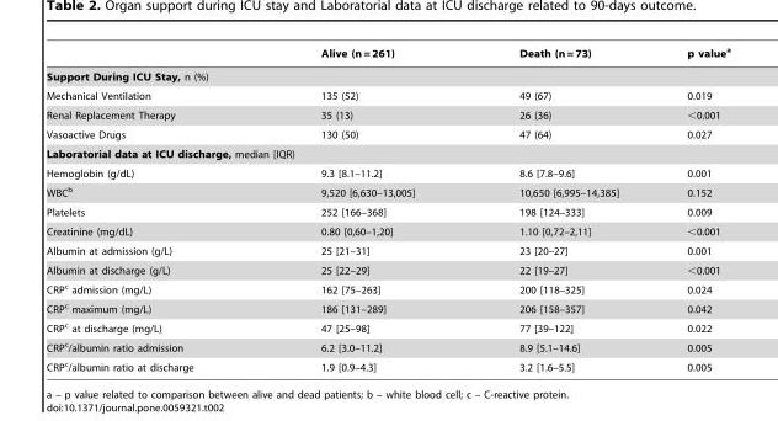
<table><thead><tr><td></td><td>Alive (n = 261)</td><td>Death (n = 73)</td><td>p value<sup>a</sup></td></tr></thead><tbody><tr><td colspan="4">Support During ICU Stay, n (%)</td></tr><tr><td>Mechanical Ventilation</td><td>135 (52)</td><td>49 (67)</td><td>0.019</td></tr><tr><td>Renal Replacement Therapy</td><td>35 (13)</td><td>26 (36)</td><td>&lt;0.001</td></tr><tr><td>Vasoactive Drugs</td><td>130 (50)</td><td>47 (64)</td><td>0.027</td></tr><tr><td colspan="4">Laboratorial data at ICU discharge, median [IQR)</td></tr><tr><td>Hemoglobin (g/dL)</td><td>9.3 [8.1–11.2]</td><td>8.6 [7.8–9.6]</td><td>0.001</td></tr><tr><td>WBC<sup>b</sup></td><td>9,520 [6,630–13,005]</td><td>10,650 [6,995–14,385]</td><td>0.152</td></tr><tr><td>Platelets</td><td>252 [166–368]</td><td>198 [124–333]</td><td>0.009</td></tr><tr><td>Creatinine (mg/dL)</td><td>0.80 [0,60–1,20]</td><td>1.10 [0,72–2,11]</td><td>&lt;0.001</td></tr><tr><td>Albumin at admission (g/L)</td><td>25 [21–31]</td><td>23 [20–27]</td><td>0.001</td></tr><tr><td>Albumin at discharge (g/L)</td><td>25 [22–29]</td><td>22 [19–27]</td><td>&lt;0.001</td></tr><tr><td>CRP<sup>c</sup> admission (mg/L)</td><td>162 [75–263]</td><td>200 [118–325]</td><td>0.024</td></tr><tr><td>CRP<sup>c</sup> maximum (mg/L)</td><td>186 [131–289]</td><td>206 [158–357]</td><td>0.042</td></tr><tr><td>CRP<sup>c</sup> at discharge (mg/L)</td><td>47 [25–98]</td><td>77 [39–122]</td><td>0.022</td></tr><tr><td>CRP<sup>c</sup>/albumin ratio admission</td><td>6.2 [3.0–11.2]</td><td>8.9 [5.1–14.6]</td><td>0.005</td></tr><tr><td>CRP<sup>c</sup>/albumin ratio at discharge</td><td>1.9 [0.9–4.3]</td><td>3.2 [1.6–5.5]</td><td>0.005</td></tr></tbody></table>